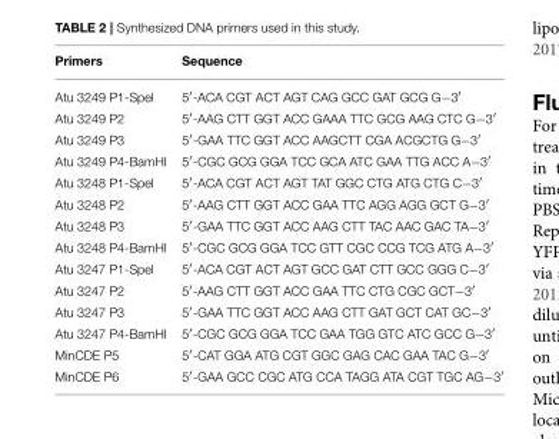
<table><thead><tr><td>Primers</td><td>Sequence</td></tr></thead><tbody><tr><td>Atu 3249 P1-Spel</td><td>5′-ACA CGT ACT AGT CAG GCC GAT GCG G−3′</td></tr><tr><td>Atu 3249 P2</td><td>5′-AAG CTT GGT ACC GAAA TTC GCG AAG CTC G−3′</td></tr><tr><td>Atu 3249 P3</td><td>5′-GAA TTC GGT ACC AAGCTT CGA ACGCTG G−3′</td></tr><tr><td>Atu 3249 P4-BamHI</td><td>5′-CGC GCG GGA TCC GCA ATC GAA TTG ACC A−3′</td></tr><tr><td>Atu 3248 P1-Spel</td><td>5′-ACA CGT ACT AGT TAT GGC CTG ATG CTG C−3′</td></tr><tr><td>Atu 3248 P2</td><td>5′-AAG CTT GGT ACC GAA TTC AGG AGG GCT G−3′</td></tr><tr><td>Atu 3248 P3</td><td>5′-GAA TTC GGT ACC AAG CTT TAC AAC GAC TA−3′</td></tr><tr><td>Atu 3248 P4-BamHI</td><td>5′-CGC GCG GGA TCC GTT CGC CCG TCG ATG A−3′</td></tr><tr><td>Atu 3247 P1-Spel</td><td>5′-ACA CGT ACT AGT GCC GAT CTT GCC GGG C−3′</td></tr><tr><td>Atu 3247 P2</td><td>5′-AAG CTT GGT ACC GAA TTC CTG CGC GCT−3′</td></tr><tr><td>Atu 3247 P3</td><td>5′-GAA TTC GGT ACC AAG CTT GAT GCT CAT GC−3′</td></tr><tr><td>Atu 3247 P4-BamHI</td><td>5′-CGC GCG GGA TCC GAA TGG GTC ATC GCC G−3′</td></tr><tr><td>MinCDE P5</td><td>5′-CAT GGA ATG CGT GGC GAG CAC GAA TAC G−3′</td></tr><tr><td>MinCDE P6</td><td>5′-GAA GCC CGC ATG CCA TAGG ATA CGT TGC AG−3′</td></tr></tbody></table>